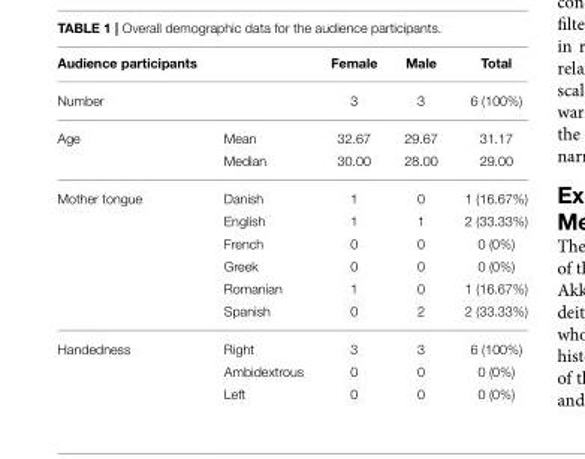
<table><thead><tr><td>Audience participants</td><td></td><td>Female</td><td>Male</td><td>Total</td></tr></thead><tbody><tr><td>Number</td><td></td><td>3</td><td>3</td><td>6 (100%)</td></tr><tr><td rowspan="2">Age</td><td>Mean</td><td>32.67</td><td>29.67</td><td>31.17</td></tr><tr><td>Median</td><td>30.00</td><td>28.00</td><td>29.00</td></tr><tr><td rowspan="6">Mother tongue</td><td>Danish</td><td>1</td><td>0</td><td>1 (16.67%)</td></tr><tr><td>English</td><td>1</td><td>1</td><td>2 (33.33%)</td></tr><tr><td>French</td><td>0</td><td>0</td><td>0 (0%)</td></tr><tr><td>Greek</td><td>0</td><td>0</td><td>0 (0%)</td></tr><tr><td>Romanian</td><td>1</td><td>0</td><td>1 (16.67%)</td></tr><tr><td>Spanish</td><td>0</td><td>2</td><td>2 (33.33%)</td></tr><tr><td rowspan="3">Handedness</td><td>Right</td><td>3</td><td>3</td><td>6 (100%)</td></tr><tr><td>Ambidextrous</td><td>0</td><td>0</td><td>0 (0%)</td></tr><tr><td>Left</td><td>0</td><td>0</td><td>0 (0%)</td></tr></tbody></table>